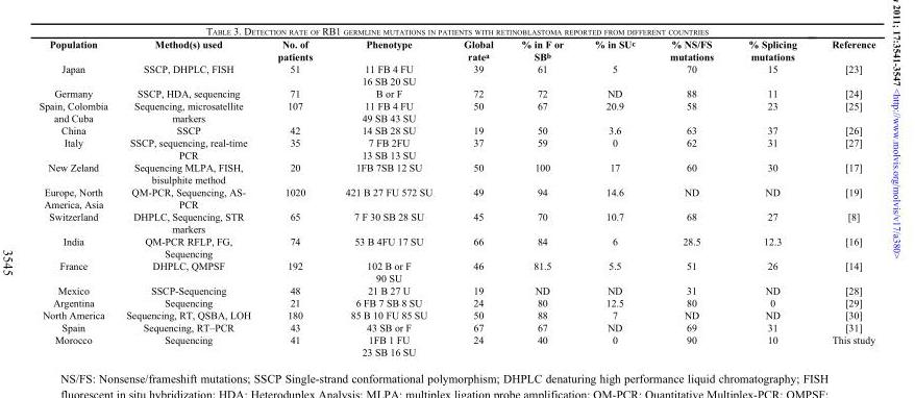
<table><thead><tr><td>Population</td><td>Method(s) used</td><td>No. of patients</td><td>Phenotype</td><td>Global rate<sup>a</sup></td><td>% in F or SB<sup>b</sup></td><td>% in SU<sup>c</sup></td><td>% NS/FS mutations</td><td>% Splicing mutations</td><td>Reference</td></tr></thead><tbody><tr><td>Japan</td><td>SSCP, DHPLC, FISH</td><td>51</td><td>11 FB 4 FU 16 SB 20 SU</td><td>39</td><td>61</td><td>5</td><td>70</td><td>15</td><td>[23]</td></tr><tr><td>Germany</td><td>SSCP, HDA, sequencing</td><td>71</td><td>B or F</td><td>72</td><td>72</td><td>ND</td><td>88</td><td>11</td><td>[24]</td></tr><tr><td>Spain, Colombia and Cuba</td><td>Sequencing, microsatellite markers</td><td>107</td><td>11 FB 4 FU 49 SB 43 SU</td><td>50</td><td>67</td><td>20.9</td><td>58</td><td>23</td><td>[25]</td></tr><tr><td>China</td><td>SSCP</td><td>42</td><td>14 SB 28 SU</td><td>19</td><td>50</td><td>3.6</td><td>63</td><td>37</td><td>[26]</td></tr><tr><td>Italy</td><td>SSCP, sequencing, real-time PCR</td><td>35</td><td>7 FB 2FU 13 SB 13 SU</td><td>37</td><td>59</td><td>0</td><td>62</td><td>31</td><td>[27]</td></tr><tr><td>New Zeland</td><td>Sequencing MLPA, FISH, bisulphite method</td><td>20</td><td>1FB 7SB 12 SU</td><td>50</td><td>100</td><td>17</td><td>60</td><td>30</td><td>[17]</td></tr><tr><td>Europe, North America, Asia</td><td>QM-PCR, Sequencing, AS- PCR</td><td>1020</td><td>421 B 27 FU 572 SU</td><td>49</td><td>94</td><td>14.6</td><td>ND</td><td>ND</td><td>[19]</td></tr><tr><td>Switzerland</td><td>DHPLC, Sequencing, STR markers</td><td>65</td><td>7 F 30 SB 28 SU</td><td>45</td><td>70</td><td>10.7</td><td>68</td><td>27</td><td>[8]</td></tr><tr><td>India</td><td>QM-PCR RFLP, FG, Sequencing</td><td>74</td><td>53 B 4FU 17 SU</td><td>66</td><td>84</td><td>6</td><td>28.5</td><td>12.3</td><td>[16]</td></tr><tr><td>France</td><td>DHPLC, QMPSF</td><td>192</td><td>102 B or F 90 SU</td><td>46</td><td>81.5</td><td>5.5</td><td>51</td><td>26</td><td>[14]</td></tr><tr><td>Mexico</td><td>SSCP-Sequencing</td><td>48</td><td>21 B 27 U</td><td>19</td><td>ND</td><td>ND</td><td>31</td><td>ND</td><td>[28]</td></tr><tr><td>Argentina</td><td>Sequencing</td><td>21</td><td>6 FB 7 SB 8 SU</td><td>24</td><td>80</td><td>12.5</td><td>80</td><td>0</td><td>[29]</td></tr><tr><td>North America</td><td>Sequencing, RT, QSBA, LOH</td><td>180</td><td>85 B 10 FU 85 SU</td><td>50</td><td>88</td><td>7</td><td>ND</td><td>ND</td><td>[30]</td></tr><tr><td>Spain</td><td>Sequencing, RT–PCR</td><td>43</td><td>43 SB or F</td><td>67</td><td>67</td><td>ND</td><td>69</td><td>31</td><td>[31]</td></tr><tr><td>Morocco</td><td>Sequencing</td><td>41</td><td>1FB 1 FU 23 SB 16 SU</td><td>24</td><td>40</td><td>0</td><td>90</td><td>10</td><td>This study</td></tr></tbody></table>